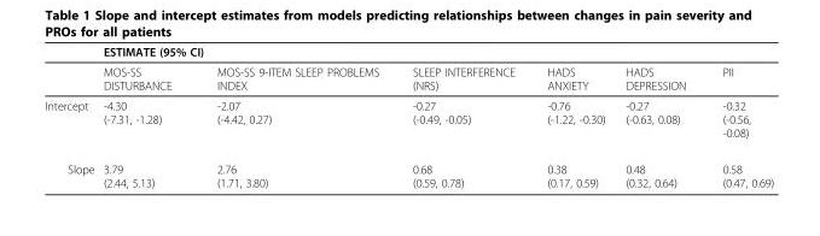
<table><thead><tr><td rowspan="2"></td><td colspan="6">ESTIMATE (95% CI)</td></tr><tr><td>MOS-SS DISTURBANCE</td><td>MOS-SS 9-ITEM SLEEP PROBLEMS INDEX</td><td>SLEEP INTERFERENCE (NRS)</td><td>HADS ANXIETY</td><td>HADS DEPRESSION</td><td>PII</td></tr></thead><tbody><tr><td>Intercept</td><td>-4.30 (-7.31, -1.28)</td><td>-2.07 (-4.42, 0.27)</td><td>-0.27 (-0.49, -0.05)</td><td>-0.76 (-1.22, -0.30)</td><td>-0.27 (-0.63, 0.08)</td><td>-0.32 (-0.56, -0.08)</td></tr><tr><td>Slope</td><td>3.79 (2.44, 5.13)</td><td>2.76 (1.71, 3.80)</td><td>0.68 (0.59, 0.78)</td><td>0.38 (0.17, 0.59)</td><td>0.48 (0.32, 0.64)</td><td>0.58 (0.47, 0.69)</td></tr></tbody></table>